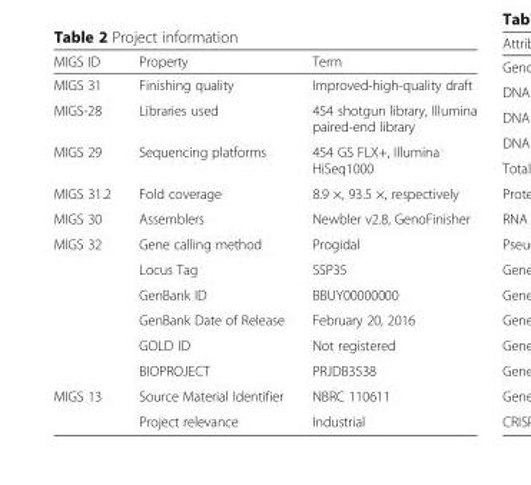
<table><thead><tr><td>MIGS ID</td><td>Property</td><td>Term</td></tr></thead><tbody><tr><td>MIGS 31</td><td>Finishing quality</td><td>Improved-high-quality draft</td></tr><tr><td>MIGS-28</td><td>Libraries used</td><td>454 shotgun library, Illumina paired-end library</td></tr><tr><td>MIGS 29</td><td>Sequencing platforms</td><td>454 GS FLX+, Illumina HiSeq1000</td></tr><tr><td>MIGS 31.2</td><td>Fold coverage</td><td>8.9 ×, 93.5 ×, respectively</td></tr><tr><td>MIGS 30</td><td>Assemblers</td><td>Newbler v2.8, GenoFinisher</td></tr><tr><td rowspan="6">MIGS 32</td><td>Gene calling method</td><td>Progidal</td></tr><tr><td>Locus Tag</td><td>SSP35</td></tr><tr><td>GenBank ID</td><td>BBUY00000000</td></tr><tr><td>GenBank Date of Release</td><td>February 20, 2016</td></tr><tr><td>GOLD ID</td><td>Not registered</td></tr><tr><td>BIOPROJECT</td><td>PRJDB3538</td></tr><tr><td rowspan="2">MIGS 13</td><td>Source Material Identifier</td><td>NBRC 110611</td></tr><tr><td>Project relevance</td><td>Industrial</td></tr></tbody></table>